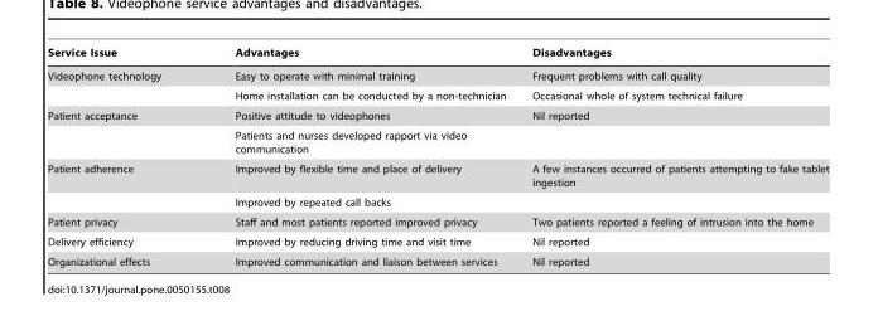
<table><thead><tr><td>Service Issue</td><td>Advantages</td><td>Disadvantages</td></tr></thead><tbody><tr><td rowspan="2">Videophone technology</td><td>Easy to operate with minimal training</td><td>Frequent problems with call quality</td></tr><tr><td>Home installation can be conducted by a non-technician</td><td>Occasional whole of system technical failure</td></tr><tr><td rowspan="2">Patient acceptance</td><td>Positive attitude to videophones</td><td>Nil reported</td></tr><tr><td>Patients and nurses developed rapport via video communication</td><td></td></tr><tr><td rowspan="2">Patient adherence</td><td>Improved by flexible time and place of delivery</td><td>A few instances occurred of patients attempting to fake tablet ingestion</td></tr><tr><td>Improved by repeated call backs</td><td></td></tr><tr><td>Patient privacy</td><td>Staff and most patients reported improved privacy</td><td>Two patients reported a feeling of intrusion into the home</td></tr><tr><td>Delivery efficiency</td><td>Improved by reducing driving time and visit time</td><td>Nil reported</td></tr><tr><td>Organizational effects</td><td>Improved communication and liaison between services</td><td>Nil reported</td></tr></tbody></table>